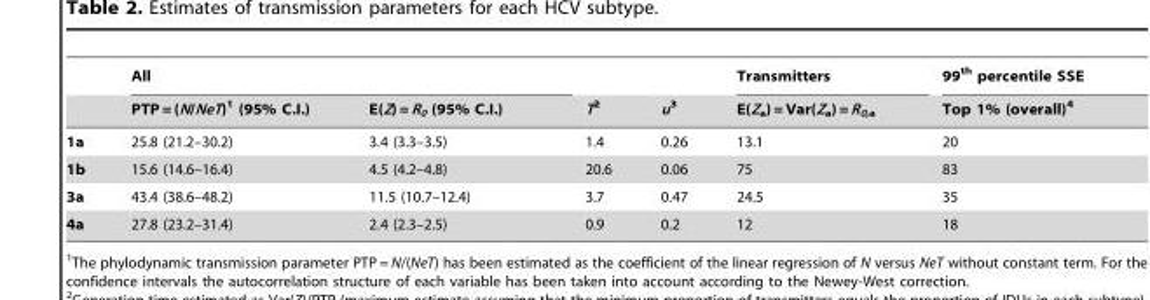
<table><thead><tr><td rowspan="2"></td><td colspan="2">All</td><td rowspan="2">T2</td><td rowspan="2">u3</td><td rowspan="2">Transmitters E(Z<sub>a</sub>) = Var(Z<sub>a</sub>) = R<sub>0,a</sub></td><td rowspan="2">99<sup>th</sup> percentile SSE Top 1% (overall)<sup>4</sup></td></tr><tr><td>PTP = (N/NeT)<sup>1</sup> (95% C.I.)</td><td>E(Z) = R<sub>0</sub> (95% C.I.)</td></tr></thead><tbody><tr><td>1a</td><td>25.8 (21.2–30.2)</td><td>3.4 (3.3–3.5)</td><td>1.4</td><td>0.26</td><td>13.1</td><td>20</td></tr><tr><td>1b</td><td>15.6 (14.6–16.4)</td><td>4.5 (4.2–4.8)</td><td>20.6</td><td>0.06</td><td>75</td><td>83</td></tr><tr><td>3a</td><td>43.4 (38.6–48.2)</td><td>11.5 (10.7–12.4)</td><td>3.7</td><td>0.47</td><td>24.5</td><td>35</td></tr><tr><td>4a</td><td>27.8 (23.2–31.4)</td><td>2.4 (2.3–2.5)</td><td>0.9</td><td>0.2</td><td>12</td><td>18</td></tr></tbody></table>